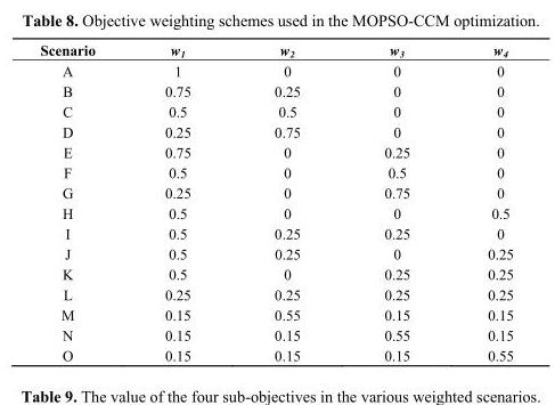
<table><thead><tr><td>Scenario</td><td>w<sub>1</sub></td><td>w<sub>2</sub></td><td>w<sub>3</sub></td><td>w<sub>4</sub></td></tr></thead><tbody><tr><td>A</td><td>1</td><td>0</td><td>0</td><td>0</td></tr><tr><td>B</td><td>0.75</td><td>0.25</td><td>0</td><td>0</td></tr><tr><td>C</td><td>0.5</td><td>0.5</td><td>0</td><td>0</td></tr><tr><td>D</td><td>0.25</td><td>0.75</td><td>0</td><td>0</td></tr><tr><td>E</td><td>0.75</td><td>0</td><td>0.25</td><td>0</td></tr><tr><td>F</td><td>0.5</td><td>0</td><td>0.5</td><td>0</td></tr><tr><td>G</td><td>0.25</td><td>0</td><td>0.75</td><td>0</td></tr><tr><td>H</td><td>0.5</td><td>0</td><td>0</td><td>0.5</td></tr><tr><td>I</td><td>0.5</td><td>0.25</td><td>0.25</td><td>0</td></tr><tr><td>J</td><td>0.5</td><td>0.25</td><td>0</td><td>0.25</td></tr><tr><td>K</td><td>0.5</td><td>0</td><td>0.25</td><td>0.25</td></tr><tr><td>L</td><td>0.25</td><td>0.25</td><td>0.25</td><td>0.25</td></tr><tr><td>M</td><td>0.15</td><td>0.55</td><td>0.15</td><td>0.15</td></tr><tr><td>N</td><td>0.15</td><td>0.15</td><td>0.55</td><td>0.15</td></tr><tr><td>O</td><td>0.15</td><td>0.15</td><td>0.15</td><td>0.55</td></tr></tbody></table>